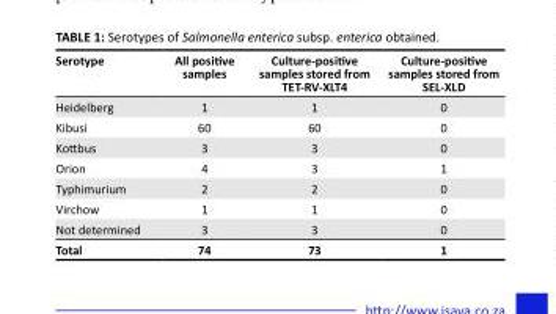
<table><thead><tr><td>Serotype</td><td>All positive samples</td><td>Culture-positive samples stored from TET-RV-XLT4</td><td>Culture-positive samples stored from SEL-XLD</td></tr></thead><tbody><tr><td>Heidelberg</td><td>1</td><td>1</td><td>0</td></tr><tr><td>Kibusi</td><td>60</td><td>60</td><td>0</td></tr><tr><td>Kottbus</td><td>3</td><td>3</td><td>0</td></tr><tr><td>Orion</td><td>4</td><td>3</td><td>1</td></tr><tr><td>Typhimurium</td><td>2</td><td>2</td><td>0</td></tr><tr><td>Virchow</td><td>1</td><td>1</td><td>0</td></tr><tr><td>Not determined</td><td>3</td><td>3</td><td>0</td></tr><tr><td>Total</td><td>74</td><td>73</td><td>1</td></tr></tbody></table>